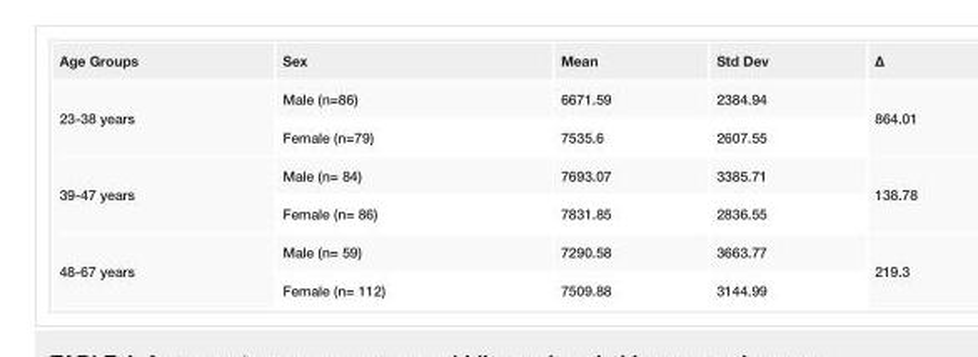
<table><tbody><tr><td>Age Groups</td><td>Sex</td><td>Mean</td><td>Std Dev</td><td>Δ</td></tr><tr><td rowspan="2">23-38 years</td><td>Male (n=86)</td><td>6671.59</td><td>2384.94</td><td rowspan="2">864.01</td></tr><tr><td>Female (n=79)</td><td>7535.6</td><td>2607.55</td></tr><tr><td rowspan="2">39-47 years</td><td>Male (n= 84)</td><td>7693.07</td><td>3385.71</td><td rowspan="2">138.78</td></tr><tr><td>Female (n= 86)</td><td>7831.85</td><td>2836.55</td></tr><tr><td rowspan="2">48-67 years</td><td>Male (n= 59)</td><td>7290.58</td><td>3663.77</td><td rowspan="2">219.3</td></tr><tr><td>Female (n= 112)</td><td>7509.88</td><td>3144.99</td></tr></tbody></table>